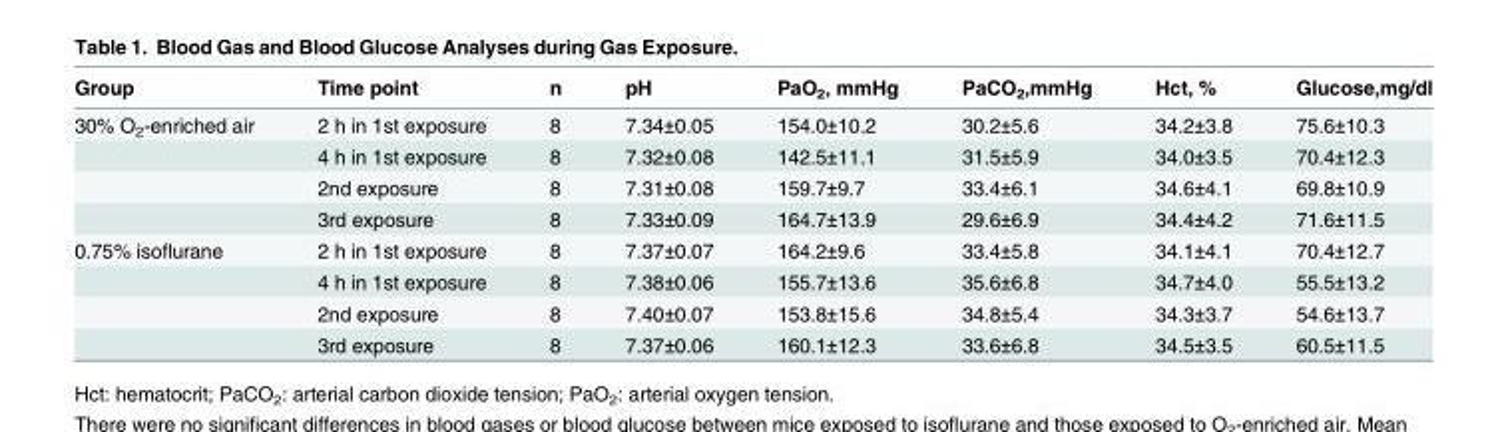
<table><thead><tr><td>Group</td><td>Time point</td><td>n</td><td>pH</td><td>PaO<sub>2</sub>, mmHg</td><td>PaCO<sub>2</sub>,mmHg</td><td>Hct, %</td><td>Glucose,mg/dl</td></tr></thead><tbody><tr><td rowspan="4">30% O<sub>2</sub>-enriched air</td><td>2 h in 1st exposure</td><td>8</td><td>7.34±0.05</td><td>154.0±10.2</td><td>30.2±5.6</td><td>34.2±3.8</td><td>75.6±10.3</td></tr><tr><td>4 h in 1st exposure</td><td>8</td><td>7.32±0.08</td><td>142.5±11.1</td><td>31.5±5.9</td><td>34.0±3.5</td><td>70.4±12.3</td></tr><tr><td>2nd exposure</td><td>8</td><td>7.31±0.08</td><td>159.7±9.7</td><td>33.4±6.1</td><td>34.6±4.1</td><td>69.8±10.9</td></tr><tr><td>3rd exposure</td><td>8</td><td>7.33±0.09</td><td>164.7±13.9</td><td>29.6±6.9</td><td>34.4±4.2</td><td>71.6±11.5</td></tr><tr><td rowspan="4">0.75% isoflurane</td><td>2 h in 1st exposure</td><td>8</td><td>7.37±0.07</td><td>164.2±9.6</td><td>33.4±5.8</td><td>34.1±4.1</td><td>70.4±12.7</td></tr><tr><td>4 h in 1st exposure</td><td>8</td><td>7.38±0.06</td><td>155.7±13.6</td><td>35.6±6.8</td><td>34.7±4.0</td><td>55.5±13.2</td></tr><tr><td>2nd exposure</td><td>8</td><td>7.40±0.07</td><td>153.8±15.6</td><td>34.8±5.4</td><td>34.3±3.7</td><td>54.6±13.7</td></tr><tr><td>3rd exposure</td><td>8</td><td>7.37±0.06</td><td>160.1±12.3</td><td>33.6±6.8</td><td>34.5±3.5</td><td>60.5±11.5</td></tr></tbody></table>